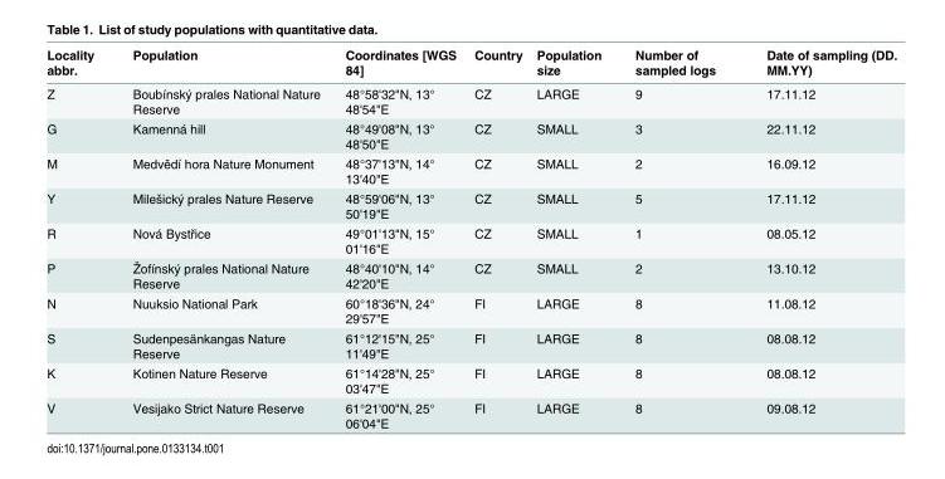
<table><thead><tr><td>Locality abbr.</td><td>Population</td><td>Coordinates [WGS 84]</td><td>Country</td><td>Population size</td><td>Number of sampled logs</td><td>Date of sampling (DD. MM.YY)</td></tr></thead><tbody><tr><td>Z</td><td>Boubínský prales National Nature Reserve</td><td>48°58&#x27;32&quot;N, 13° 48&#x27;54&quot;E</td><td>CZ</td><td>LARGE</td><td>9</td><td>17.11.12</td></tr><tr><td>G</td><td>Kamenná hill</td><td>48°49&#x27;08&quot;N, 13° 48&#x27;50&quot;E</td><td>CZ</td><td>SMALL</td><td>3</td><td>22.11.12</td></tr><tr><td>M</td><td>Medvědí hora Nature Monument</td><td>48°37&#x27;13&quot;N, 14° 13&#x27;40&quot;E</td><td>CZ</td><td>SMALL</td><td>2</td><td>16.09.12</td></tr><tr><td>Y</td><td>Milešický prales Nature Reserve</td><td>48°59&#x27;06&quot;N, 13° 50&#x27;19&quot;E</td><td>CZ</td><td>SMALL</td><td>5</td><td>17.11.12</td></tr><tr><td>R</td><td>Nová Bystřice</td><td>49°01&#x27;13&quot;N, 15° 01&#x27;16&quot;E</td><td>CZ</td><td>SMALL</td><td>1</td><td>08.05.12</td></tr><tr><td>P</td><td>Žofínský prales National Nature Reserve</td><td>48°40&#x27;10&quot;N, 14° 42&#x27;20&quot;E</td><td>CZ</td><td>SMALL</td><td>2</td><td>13.10.12</td></tr><tr><td>N</td><td>Nuuksio National Park</td><td>60°18&#x27;36&quot;N, 24° 29&#x27;57&quot;E</td><td>FI</td><td>LARGE</td><td>8</td><td>11.08.12</td></tr><tr><td>S</td><td>Sudenpesänkangas Nature Reserve</td><td>61°12&#x27;15&quot;N, 25° 11&#x27;49&quot;E</td><td>FI</td><td>LARGE</td><td>8</td><td>08.08.12</td></tr><tr><td>K</td><td>Kotinen Nature Reserve</td><td>61°14&#x27;28&quot;N, 25° 03&#x27;47&quot;E</td><td>FI</td><td>LARGE</td><td>8</td><td>08.08.12</td></tr><tr><td>V</td><td>Vesijako Strict Nature Reserve</td><td>61°21&#x27;00&quot;N, 25° 06&#x27;04&quot;E</td><td>FI</td><td>LARGE</td><td>8</td><td>09.08.12</td></tr></tbody></table>